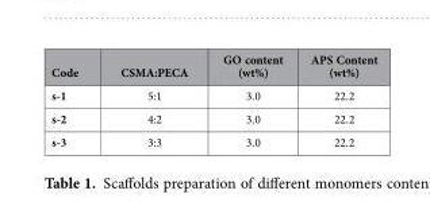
<table><thead><tr><td>Code</td><td>CSMA:PECA</td><td>GO content (wt%)</td><td>APS Content (wt%)</td></tr></thead><tbody><tr><td>s-1</td><td>5:1</td><td>3.0</td><td>22.2</td></tr><tr><td>s-2</td><td>4:2</td><td>3.0</td><td>22.2</td></tr><tr><td>s-3</td><td>3:3</td><td>3.0</td><td>22.2</td></tr></tbody></table>